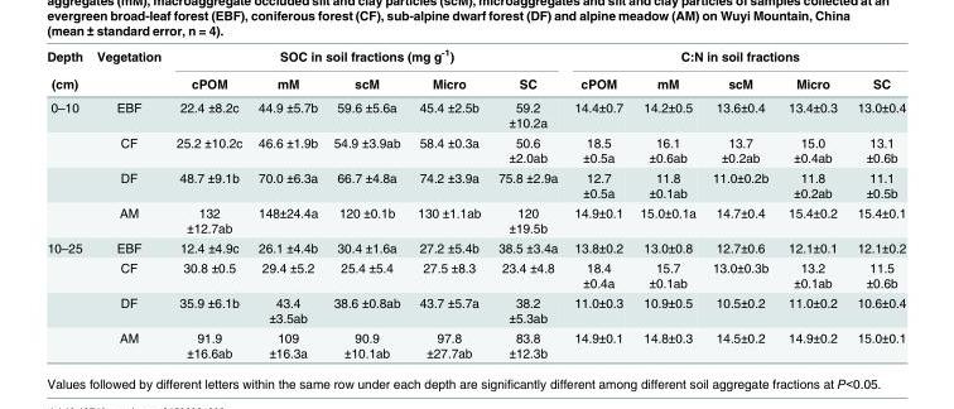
<table><thead><tr><td rowspan="2">Depth (cm)</td><td rowspan="2">Vegetation</td><td colspan="5">SOC in soil fractions (mg g<sup>-1</sup>)</td><td colspan="5">C:N in soil fractions</td></tr><tr><td>cPOM</td><td>mM</td><td>scM</td><td>Micro</td><td>SC</td><td>cPOM</td><td>mM</td><td>scM</td><td>Micro</td><td>SC</td></tr></thead><tbody><tr><td rowspan="4">0–10</td><td>EBF</td><td>22.4 ±8.2c</td><td>44.9 ±5.7b</td><td>59.6 ±5.6a</td><td>45.4 ±2.5b</td><td>59.2 ±10.2a</td><td>14.4±0.7</td><td>14.2±0.5</td><td>13.6±0.4</td><td>13.4±0.3</td><td>13.0±0.4</td></tr><tr><td>CF</td><td>25.2 ±10.2c</td><td>46.6 ±1.9b</td><td>54.9 ±3.9ab</td><td>58.4 ±0.3a</td><td>50.6 ±2.0ab</td><td>18.5 ±0.5a</td><td>16.1 ±0.6ab</td><td>13.7 ±0.2ab</td><td>15.0 ±0.4ab</td><td>13.1 ±0.6b</td></tr><tr><td>DF</td><td>48.7 ±9.1b</td><td>70.0 ±6.3a</td><td>66.7 ±4.8a</td><td>74.2 ±3.9a</td><td>75.8 ±2.9a</td><td>12.7 ±0.5a</td><td>11.8 ±0.1ab</td><td>11.0±0.2b</td><td>11.8 ±0.2ab</td><td>11.1 ±0.5b</td></tr><tr><td>AM</td><td>132 ±12.7ab</td><td>148±24.4a</td><td>120 ±0.1b</td><td>130 ±1.1ab</td><td>120 ±19.5b</td><td>14.9±0.1</td><td>15.0±0.1a</td><td>14.7±0.4</td><td>15.4±0.2</td><td>15.4±0.1</td></tr><tr><td rowspan="4">10–25</td><td>EBF</td><td>12.4 ±4.9c</td><td>26.1 ±4.4b</td><td>30.4 ±1.6a</td><td>27.2 ±5.4b</td><td>38.5 ±3.4a</td><td>13.8±0.2</td><td>13.0±0.8</td><td>12.7±0.6</td><td>12.1±0.1</td><td>12.1±0.2</td></tr><tr><td>CF</td><td>30.8 ±0.5</td><td>29.4 ±5.2</td><td>25.4 ±5.4</td><td>27.5 ±8.3</td><td>23.4 ±4.8</td><td>18.4 ±0.4a</td><td>15.7 ±0.1ab</td><td>13.0±0.3b</td><td>13.2 ±0.1ab</td><td>11.5 ±0.6b</td></tr><tr><td>DF</td><td>35.9 ±6.1b</td><td>43.4 ±3.5ab</td><td>38.6 ±0.8ab</td><td>43.7 ±5.7a</td><td>38.2 ±5.3ab</td><td>11.0±0.3</td><td>10.9±0.5</td><td>10.5±0.2</td><td>11.0±0.2</td><td>10.6±0.4</td></tr><tr><td>AM</td><td>91.9 ±16.6ab</td><td>109 ±16.3a</td><td>90.9 ±10.1ab</td><td>97.8 ±27.7ab</td><td>83.8 ±12.3b</td><td>14.9±0.1</td><td>14.8±0.3</td><td>14.5±0.2</td><td>14.9±0.2</td><td>15.0±0.1</td></tr></tbody></table>